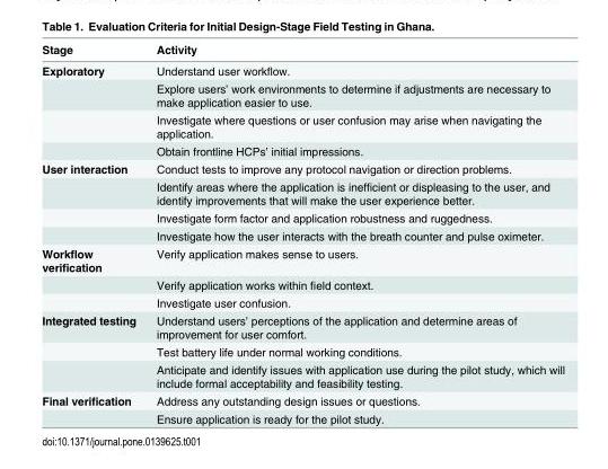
<table><thead><tr><td>Stage</td><td>Activity</td></tr></thead><tbody><tr><td rowspan="4">Exploratory</td><td>Understand user workflow.</td></tr><tr><td>Explore users’ work environments to determine if adjustments are necessary to make application easier to use.</td></tr><tr><td>Investigate where questions or user confusion may arise when navigating the application.</td></tr><tr><td>Obtain frontline HCPs’ initial impressions.</td></tr><tr><td rowspan="4">User interaction</td><td>Conduct tests to improve any protocol navigation or direction problems.</td></tr><tr><td>Identify areas where the application is inefficient or displeasing to the user, and identify improvements that will make the user experience better.</td></tr><tr><td>Investigate form factor and application robustness and ruggedness.</td></tr><tr><td>Investigate how the user interacts with the breath counter and pulse oximeter.</td></tr><tr><td rowspan="3">Workflow verification</td><td>Verify application makes sense to users.</td></tr><tr><td>Verify application works within field context.</td></tr><tr><td>Investigate user confusion.</td></tr><tr><td rowspan="3">Integrated testing</td><td>Understand users’ perceptions of the application and determine areas of improvement for user comfort.</td></tr><tr><td>Test battery life under normal working conditions.</td></tr><tr><td>Anticipate and identify issues with application use during the pilot study, which will include formal acceptability and feasibility testing.</td></tr><tr><td rowspan="2">Final verification</td><td>Address any outstanding design issues or questions.</td></tr><tr><td>Ensure application is ready for the pilot study.</td></tr></tbody></table>